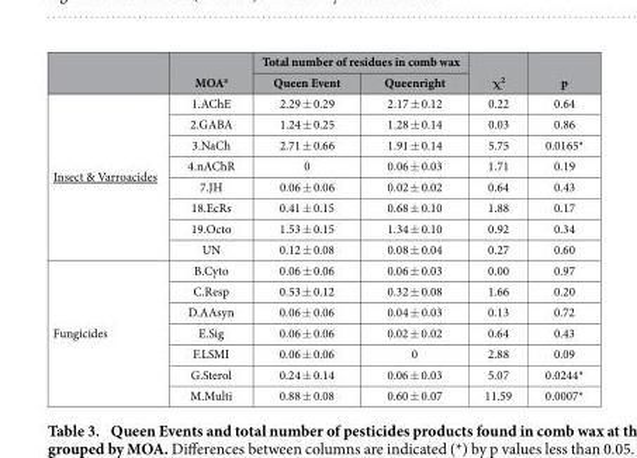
<table><thead><tr><td rowspan="2"></td><td rowspan="2">MOA<sup>a</sup></td><td colspan="2">Total number of residues in comb wax</td><td rowspan="2">χ<sup>2</sup></td><td rowspan="2">p</td></tr><tr><td>Queen Event</td><td>Queenright</td></tr></thead><tbody><tr><td rowspan="8">Insect &amp; Varroacides</td><td>1.AChE</td><td>2.29 ± 0.29</td><td>2.17 ± 0.12</td><td>0.22</td><td>0.64</td></tr><tr><td>2.GABA</td><td>1.24 ± 0.25</td><td>1.28 ± 0.14</td><td>0.03</td><td>0.86</td></tr><tr><td>3.NaCh</td><td>2.71 ± 0.66</td><td>1.91 ± 0.14</td><td>5.75</td><td>0.0165*</td></tr><tr><td>4.nAChR</td><td>0</td><td>0.06 ± 0.03</td><td>1.71</td><td>0.19</td></tr><tr><td>7.JH</td><td>0.06 ± 0.06</td><td>0.02 ± 0.02</td><td>0.64</td><td>0.43</td></tr><tr><td>18.EcRs</td><td>0.41 ± 0.15</td><td>0.68 ± 0.10</td><td>1.88</td><td>0.17</td></tr><tr><td>19.Octo</td><td>1.53 ± 0.15</td><td>1.34 ± 0.10</td><td>0.92</td><td>0.34</td></tr><tr><td>UN</td><td>0.12 ± 0.08</td><td>0.08 ± 0.04</td><td>0.27</td><td>0.60</td></tr><tr><td rowspan="7">Fungicides</td><td>B.Cyto</td><td>0.06 ± 0.06</td><td>0.06 ± 0.03</td><td>0.00</td><td>0.97</td></tr><tr><td>C.Resp</td><td>0.53 ± 0.12</td><td>0.32 ± 0.08</td><td>1.66</td><td>0.20</td></tr><tr><td>D.AAsyn</td><td>0.06 ± 0.06</td><td>0.04 ± 0.03</td><td>0.13</td><td>0.72</td></tr><tr><td>E.Sig</td><td>0.06 ± 0.06</td><td>0.02 ± 0.02</td><td>0.64</td><td>0.43</td></tr><tr><td>F.LSMI</td><td>0.06 ± 0.06</td><td>0</td><td>2.88</td><td>0.09</td></tr><tr><td>G.Sterol</td><td>0.24 ± 0.14</td><td>0.06 ± 0.03</td><td>5.07</td><td>0.0244*</td></tr><tr><td>M.Multi</td><td>0.88 ± 0.08</td><td>0.60 ± 0.07</td><td>11.59</td><td>0.0007*</td></tr></tbody></table>